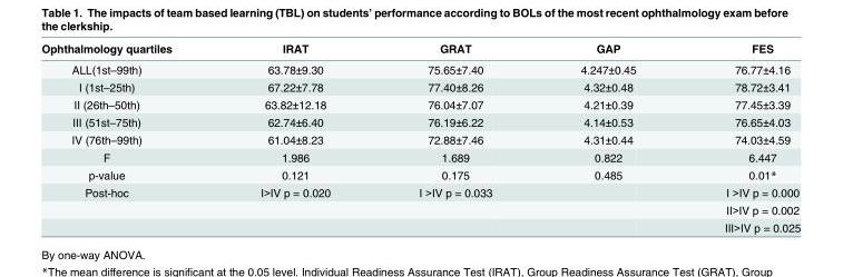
<table><thead><tr><td>Ophthalmology quartiles</td><td>IRAT</td><td>GRAT</td><td>GAP</td><td>FES</td></tr></thead><tbody><tr><td>ALL(1st–99th)</td><td>63.78±9.30</td><td>75.65±7.40</td><td>4.247±0.45</td><td>76.77±4.16</td></tr><tr><td>I (1st–25th)</td><td>67.22±7.78</td><td>77.40±8.26</td><td>4.32±0.48</td><td>78.72±3.41</td></tr><tr><td>II (26th–50th)</td><td>63.82±12.18</td><td>76.04±7.07</td><td>4.21±0.39</td><td>77.45±3.39</td></tr><tr><td>III (51st–75th)</td><td>62.74±6.40</td><td>76.19±6.22</td><td>4.14±0.53</td><td>76.65±4.03</td></tr><tr><td>IV (76th–99th)</td><td>61.04±8.23</td><td>72.88±7.46</td><td>4.31±0.44</td><td>74.03±4.59</td></tr><tr><td>F</td><td>1.986</td><td>1.689</td><td>0.822</td><td>6.447</td></tr><tr><td>p-value</td><td>0.121</td><td>0.175</td><td>0.485</td><td>0.01*</td></tr><tr><td rowspan="3">Post-hoc</td><td>I&gt;IV p = 0.020</td><td>I &gt;IV p = 0.033</td><td></td><td>I &gt;IV p = 0.000</td></tr><tr><td></td><td></td><td></td><td>II&gt;IV p = 0.002</td></tr><tr><td></td><td></td><td></td><td>III&gt;IV p = 0.025</td></tr></tbody></table>